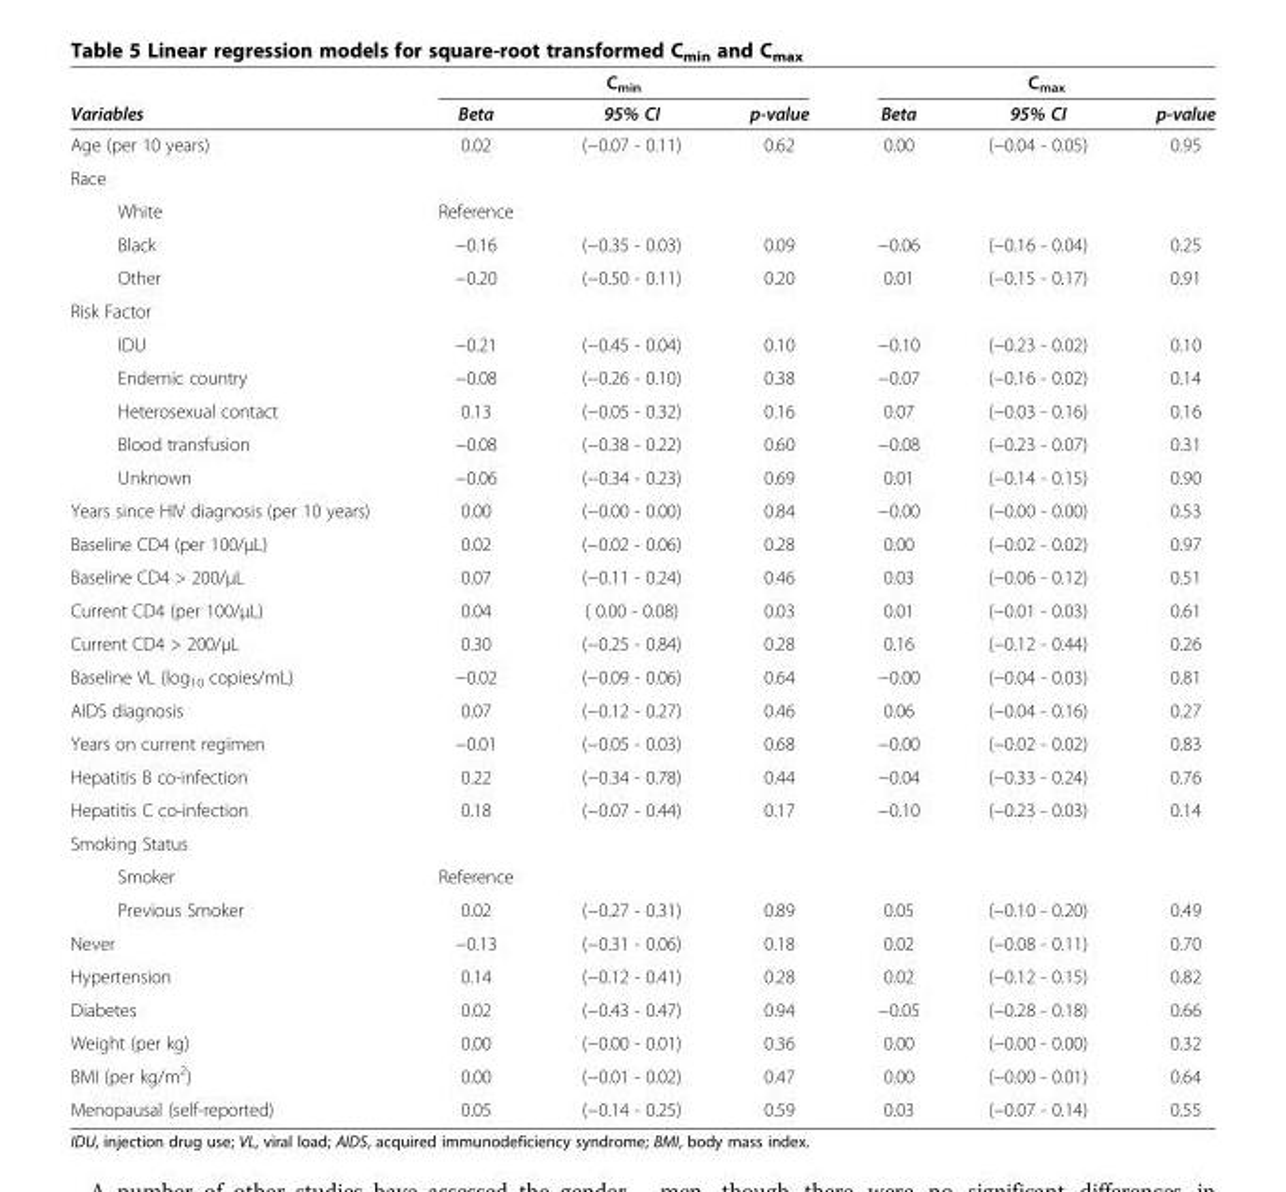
<table><thead><tr><td rowspan="2">Variables</td><td colspan="3">C<sub>min</sub></td><td colspan="3">C<sub>max</sub></td></tr><tr><td>Beta</td><td>95% CI</td><td>p-value</td><td>Beta</td><td>95% CI</td><td>p-value</td></tr></thead><tbody><tr><td>Age (per 10 years)</td><td>0.02</td><td>(−0.07 - 0.11)</td><td>0.62</td><td>0.00</td><td>(−0.04 - 0.05)</td><td>0.95</td></tr><tr><td colspan="7">Race</td></tr><tr><td>White</td><td>Reference</td><td></td><td></td><td></td><td></td><td></td></tr><tr><td>Black</td><td>−0.16</td><td>(−0.35 - 0.03)</td><td>0.09</td><td>−0.06</td><td>(−0.16 - 0.04)</td><td>0.25</td></tr><tr><td>Other</td><td>−0.20</td><td>(−0.50 - 0.11)</td><td>0.20</td><td>0.01</td><td>(−0.15 - 0.17)</td><td>0.91</td></tr><tr><td colspan="7">Risk Factor</td></tr><tr><td>IDU</td><td>−0.21</td><td>(−0.45 - 0.04)</td><td>0.10</td><td>−0.10</td><td>(−0.23 - 0.02)</td><td>0.10</td></tr><tr><td>Endemic country</td><td>−0.08</td><td>(−0.26 - 0.10)</td><td>0.38</td><td>−0.07</td><td>(−0.16 - 0.02)</td><td>0.14</td></tr><tr><td>Heterosexual contact</td><td>0.13</td><td>(−0.05 - 0.32)</td><td>0.16</td><td>0.07</td><td>(−0.03 - 0.16)</td><td>0.16</td></tr><tr><td>Blood transfusion</td><td>−0.08</td><td>(−0.38 - 0.22)</td><td>0.60</td><td>−0.08</td><td>(−0.23 - 0.07)</td><td>0.31</td></tr><tr><td>Unknown</td><td>−0.06</td><td>(−0.34 - 0.23)</td><td>0.69</td><td>0.01</td><td>(−0.14 - 0.15)</td><td>0.90</td></tr><tr><td>Years since HIV diagnosis (per 10 years)</td><td>0.00</td><td>(−0.00 - 0.00)</td><td>0.84</td><td>−0.00</td><td>(−0.00 - 0.00)</td><td>0.53</td></tr><tr><td>Baseline CD4 (per 100/μL)</td><td>0.02</td><td>(−0.02 - 0.06)</td><td>0.28</td><td>0.00</td><td>(−0.02 - 0.02)</td><td>0.97</td></tr><tr><td>Baseline CD4 &gt; 200/μL</td><td>0.07</td><td>(−0.11 - 0.24)</td><td>0.46</td><td>0.03</td><td>(−0.06 - 0.12)</td><td>0.51</td></tr><tr><td>Current CD4 (per 100/μL)</td><td>0.04</td><td>( 0.00 - 0.08)</td><td>0.03</td><td>0.01</td><td>(−0.01 - 0.03)</td><td>0.61</td></tr><tr><td>Current CD4 &gt; 200/μL</td><td>0.30</td><td>(−0.25 - 0.84)</td><td>0.28</td><td>0.16</td><td>(−0.12 - 0.44)</td><td>0.26</td></tr><tr><td>Baseline VL (log<sub>10</sub> copies/mL)</td><td>−0.02</td><td>(−0.09 - 0.06)</td><td>0.64</td><td>−0.00</td><td>(−0.04 - 0.03)</td><td>0.81</td></tr><tr><td>AIDS diagnosis</td><td>0.07</td><td>(−0.12 - 0.27)</td><td>0.46</td><td>0.06</td><td>(−0.04 - 0.16)</td><td>0.27</td></tr><tr><td>Years on current regimen</td><td>−0.01</td><td>(−0.05 - 0.03)</td><td>0.68</td><td>−0.00</td><td>(−0.02 - 0.02)</td><td>0.83</td></tr><tr><td>Hepatitis B co-infection</td><td>0.22</td><td>(−0.34 - 0.78)</td><td>0.44</td><td>−0.04</td><td>(−0.33 - 0.24)</td><td>0.76</td></tr><tr><td>Hepatitis C co-infection</td><td>0.18</td><td>(−0.07 - 0.44)</td><td>0.17</td><td>−0.10</td><td>(−0.23 - 0.03)</td><td>0.14</td></tr><tr><td colspan="7">Smoking Status</td></tr><tr><td>Smoker</td><td>Reference</td><td></td><td></td><td></td><td></td><td></td></tr><tr><td>Previous Smoker</td><td>0.02</td><td>(−0.27 - 0.31)</td><td>0.89</td><td>0.05</td><td>(−0.10 - 0.20)</td><td>0.49</td></tr><tr><td>Never</td><td>−0.13</td><td>(−0.31 - 0.06)</td><td>0.18</td><td>0.02</td><td>(−0.08 - 0.11)</td><td>0.70</td></tr><tr><td>Hypertension</td><td>0.14</td><td>(−0.12 - 0.41)</td><td>0.28</td><td>0.02</td><td>(−0.12 - 0.15)</td><td>0.82</td></tr><tr><td>Diabetes</td><td>0.02</td><td>(−0.43 - 0.47)</td><td>0.94</td><td>−0.05</td><td>(−0.28 - 0.18)</td><td>0.66</td></tr><tr><td>Weight (per kg)</td><td>0.00</td><td>(−0.00 - 0.01)</td><td>0.36</td><td>0.00</td><td>(−0.00 - 0.00)</td><td>0.32</td></tr><tr><td>BMI (per kg/m<sup>2</sup>)</td><td>0.00</td><td>(−0.01 - 0.02)</td><td>0.47</td><td>0.00</td><td>(−0.00 - 0.01)</td><td>0.64</td></tr><tr><td>Menopausal (self-reported)</td><td>0.05</td><td>(−0.14 - 0.25)</td><td>0.59</td><td>0.03</td><td>(−0.07 - 0.14)</td><td>0.55</td></tr></tbody></table>